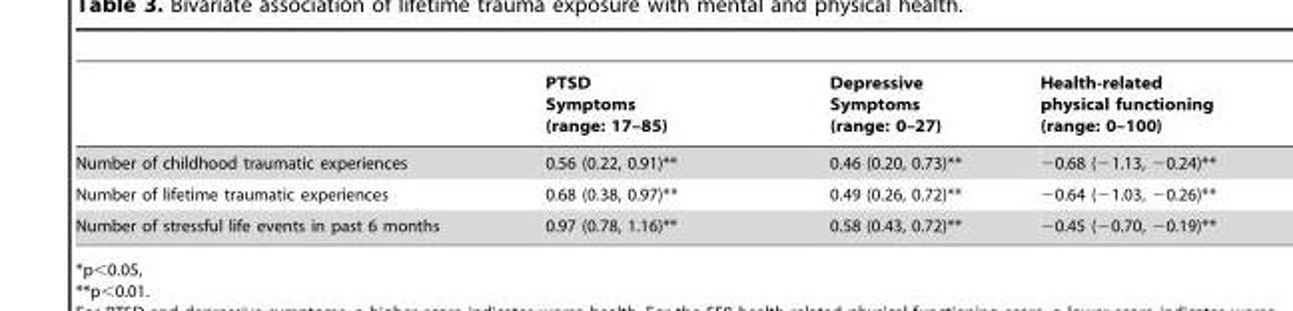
<table><thead><tr><td></td><td>PTSD Symptoms (range: 17–85)</td><td>Depressive Symptoms (range: 0–27)</td><td>Health-related physical functioning (range: 0–100)</td></tr></thead><tbody><tr><td>Number of childhood traumatic experiences</td><td>0.56 (0.22, 0.91)**</td><td>0.46 (0.20, 0.73)**</td><td>−0.68 (−1.13, −0.24)**</td></tr><tr><td>Number of lifetime traumatic experiences</td><td>0.68 (0.38, 0.97)**</td><td>0.49 (0.26, 0.72)**</td><td>−0.64 (−1.03, −0.26)**</td></tr><tr><td>Number of stressful life events in past 6 months</td><td>0.97 (0.78, 1.16)**</td><td>0.58 (0.43, 0.72)**</td><td>−0.45 (−0.70, −0.19)**</td></tr></tbody></table>